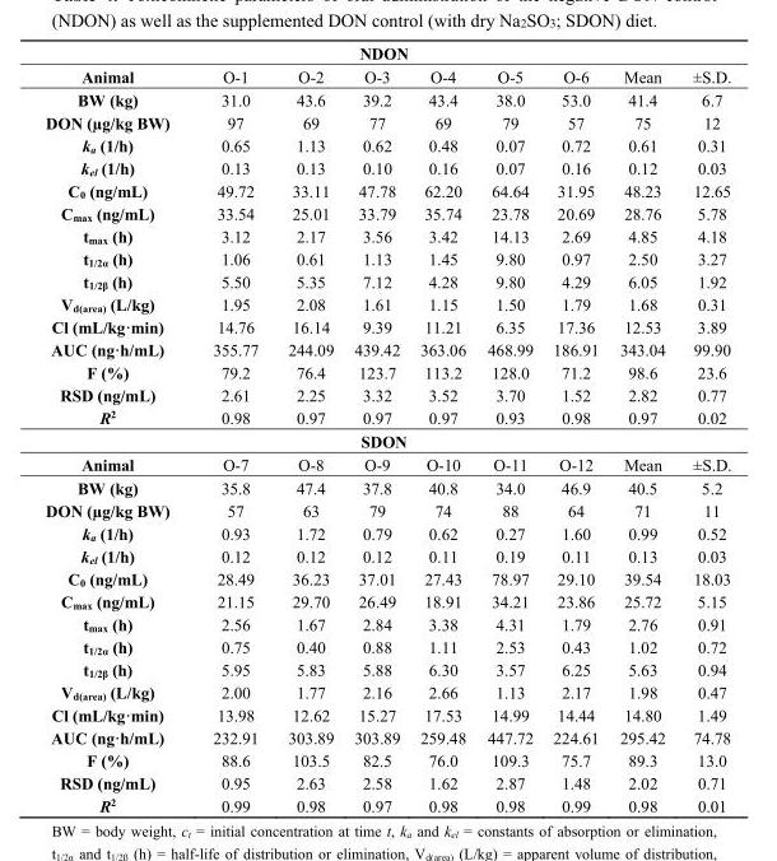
<table><tbody><tr><td colspan="9">NDON</td></tr><tr><td>Animal</td><td>O-1</td><td>O-2</td><td>O-3</td><td>O-4</td><td>O-5</td><td>O-6</td><td>Mean</td><td>±S.D.</td></tr><tr><td>BW (kg)</td><td>31.0</td><td>43.6</td><td>39.2</td><td>43.4</td><td>38.0</td><td>53.0</td><td>41.4</td><td>6.7</td></tr><tr><td>DON (µg/kg BW)</td><td>97</td><td>69</td><td>77</td><td>69</td><td>79</td><td>57</td><td>75</td><td>12</td></tr><tr><td>k<sub>a</sub> (1/h)</td><td>0.65</td><td>1.13</td><td>0.62</td><td>0.48</td><td>0.07</td><td>0.72</td><td>0.61</td><td>0.31</td></tr><tr><td>k<sub>el</sub> (1/h)</td><td>0.13</td><td>0.13</td><td>0.10</td><td>0.16</td><td>0.07</td><td>0.16</td><td>0.12</td><td>0.03</td></tr><tr><td>C<sub>0</sub> (ng/mL)</td><td>49.72</td><td>33.11</td><td>47.78</td><td>62.20</td><td>64.64</td><td>31.95</td><td>48.23</td><td>12.65</td></tr><tr><td>C<sub>max</sub> (ng/mL)</td><td>33.54</td><td>25.01</td><td>33.79</td><td>35.74</td><td>23.78</td><td>20.69</td><td>28.76</td><td>5.78</td></tr><tr><td>t<sub>max</sub> (h)</td><td>3.12</td><td>2.17</td><td>3.56</td><td>3.42</td><td>14.13</td><td>2.69</td><td>4.85</td><td>4.18</td></tr><tr><td>t<sub>1/2α</sub> (h)</td><td>1.06</td><td>0.61</td><td>1.13</td><td>1.45</td><td>9.80</td><td>0.97</td><td>2.50</td><td>3.27</td></tr><tr><td>t<sub>1/2β</sub> (h)</td><td>5.50</td><td>5.35</td><td>7.12</td><td>4.28</td><td>9.80</td><td>4.29</td><td>6.05</td><td>1.92</td></tr><tr><td>V<sub>d(area)</sub> (L/kg)</td><td>1.95</td><td>2.08</td><td>1.61</td><td>1.15</td><td>1.50</td><td>1.79</td><td>1.68</td><td>0.31</td></tr><tr><td>Cl (mL/kg·min)</td><td>14.76</td><td>16.14</td><td>9.39</td><td>11.21</td><td>6.35</td><td>17.36</td><td>12.53</td><td>3.89</td></tr><tr><td>AUC (ng·h/mL)</td><td>355.77</td><td>244.09</td><td>439.42</td><td>363.06</td><td>468.99</td><td>186.91</td><td>343.04</td><td>99.90</td></tr><tr><td>F (%)</td><td>79.2</td><td>76.4</td><td>123.7</td><td>113.2</td><td>128.0</td><td>71.2</td><td>98.6</td><td>23.6</td></tr><tr><td>RSD (ng/mL)</td><td>2.61</td><td>2.25</td><td>3.32</td><td>3.52</td><td>3.70</td><td>1.52</td><td>2.82</td><td>0.77</td></tr><tr><td>R<sup>2</sup></td><td>0.98</td><td>0.97</td><td>0.97</td><td>0.97</td><td>0.93</td><td>0.98</td><td>0.97</td><td>0.02</td></tr><tr><td colspan="9">SDON</td></tr><tr><td>Animal</td><td>O-7</td><td>O-8</td><td>O-9</td><td>O-10</td><td>O-11</td><td>O-12</td><td>Mean</td><td>±S.D.</td></tr><tr><td>BW (kg)</td><td>35.8</td><td>47.4</td><td>37.8</td><td>40.8</td><td>34.0</td><td>46.9</td><td>40.5</td><td>5.2</td></tr><tr><td>DON (µg/kg BW)</td><td>57</td><td>63</td><td>79</td><td>74</td><td>88</td><td>64</td><td>71</td><td>11</td></tr><tr><td>k<sub>a</sub> (1/h)</td><td>0.93</td><td>1.72</td><td>0.79</td><td>0.62</td><td>0.27</td><td>1.60</td><td>0.99</td><td>0.52</td></tr><tr><td>k<sub>el</sub> (1/h)</td><td>0.12</td><td>0.12</td><td>0.12</td><td>0.11</td><td>0.19</td><td>0.11</td><td>0.13</td><td>0.03</td></tr><tr><td>C<sub>0</sub> (ng/mL)</td><td>28.49</td><td>36.23</td><td>37.01</td><td>27.43</td><td>78.97</td><td>29.10</td><td>39.54</td><td>18.03</td></tr><tr><td>C<sub>max</sub> (ng/mL)</td><td>21.15</td><td>29.70</td><td>26.49</td><td>18.91</td><td>34.21</td><td>23.86</td><td>25.72</td><td>5.15</td></tr><tr><td>t<sub>max</sub> (h)</td><td>2.56</td><td>1.67</td><td>2.84</td><td>3.38</td><td>4.31</td><td>1.79</td><td>2.76</td><td>0.91</td></tr><tr><td>t<sub>1/2α</sub> (h)</td><td>0.75</td><td>0.40</td><td>0.88</td><td>1.11</td><td>2.53</td><td>0.43</td><td>1.02</td><td>0.72</td></tr><tr><td>t<sub>1/2β</sub> (h)</td><td>5.95</td><td>5.83</td><td>5.88</td><td>6.30</td><td>3.57</td><td>6.25</td><td>5.63</td><td>0.94</td></tr><tr><td>V<sub>d(area)</sub> (L/kg)</td><td>2.00</td><td>1.77</td><td>2.16</td><td>2.66</td><td>1.13</td><td>2.17</td><td>1.98</td><td>0.47</td></tr><tr><td>Cl (mL/kg·min)</td><td>13.98</td><td>12.62</td><td>15.27</td><td>17.53</td><td>14.99</td><td>14.44</td><td>14.80</td><td>1.49</td></tr><tr><td>AUC (ng·h/mL)</td><td>232.91</td><td>303.89</td><td>303.89</td><td>259.48</td><td>447.72</td><td>224.61</td><td>295.42</td><td>74.78</td></tr><tr><td>F (%)</td><td>88.6</td><td>103.5</td><td>82.5</td><td>76.0</td><td>109.3</td><td>75.7</td><td>89.3</td><td>13.0</td></tr><tr><td>RSD (ng/mL)</td><td>0.95</td><td>2.63</td><td>2.58</td><td>1.62</td><td>2.87</td><td>1.48</td><td>2.02</td><td>0.71</td></tr><tr><td>R<sup>2</sup></td><td>0.99</td><td>0.98</td><td>0.97</td><td>0.98</td><td>0.98</td><td>0.99</td><td>0.98</td><td>0.01</td></tr></tbody></table>